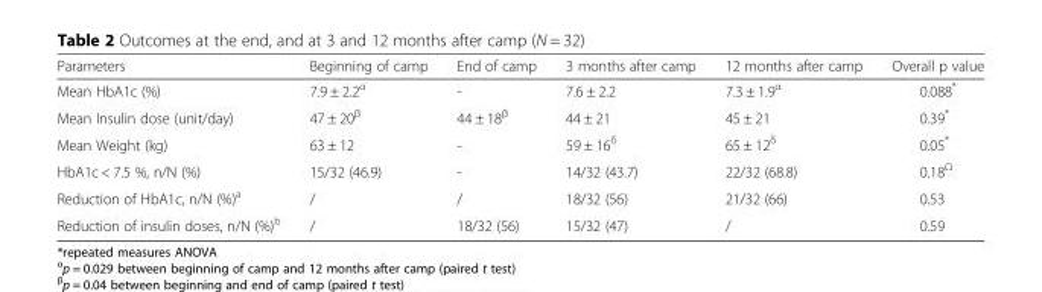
<table><thead><tr><td>Parameters</td><td>Beginning of camp</td><td>End of camp</td><td>3 months after camp</td><td>12 months after camp</td><td>Overall p value</td></tr></thead><tbody><tr><td>Mean HbA1c (%)</td><td>7.9 ± 2.2<sup>α</sup></td><td>-</td><td>7.6 ± 2.2</td><td>7.3 ± 1.9<sup>α</sup></td><td>0.088*</td></tr><tr><td>Mean Insulin dose (unit/day)</td><td>47 ± 20<sup>β</sup></td><td>44 ± 18<sup>β</sup></td><td>44 ± 21</td><td>45 ± 21</td><td>0.39*</td></tr><tr><td>Mean Weight (kg)</td><td>63 ± 12</td><td>-</td><td>59 ± 16<sup>δ</sup></td><td>65 ± 12<sup>δ</sup></td><td>0.05*</td></tr><tr><td>HbA1c &lt; 7.5 %, n/N (%)</td><td>15/32 (46.9)</td><td>-</td><td>14/32 (43.7)</td><td>22/32 (68.8)</td><td>0.18<sup>Ω</sup></td></tr><tr><td>Reduction of HbA1c, n/N (%)<sup>a</sup></td><td>/</td><td>/</td><td>18/32 (56)</td><td>21/32 (66)</td><td>0.53</td></tr><tr><td>Reduction of insulin doses, n/N (%)<sup>b</sup></td><td>/</td><td>18/32 (56)</td><td>15/32 (47)</td><td>/</td><td>0.59</td></tr></tbody></table>